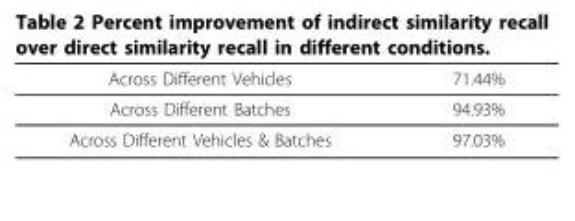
<table><thead><tr><td>Across Different Vehicles</td><td>71.44%</td></tr></thead><tbody><tr><td>Across Different Batches</td><td>94.93%</td></tr><tr><td>Across Different Vehicles &amp; Batches</td><td>97.03%</td></tr></tbody></table>